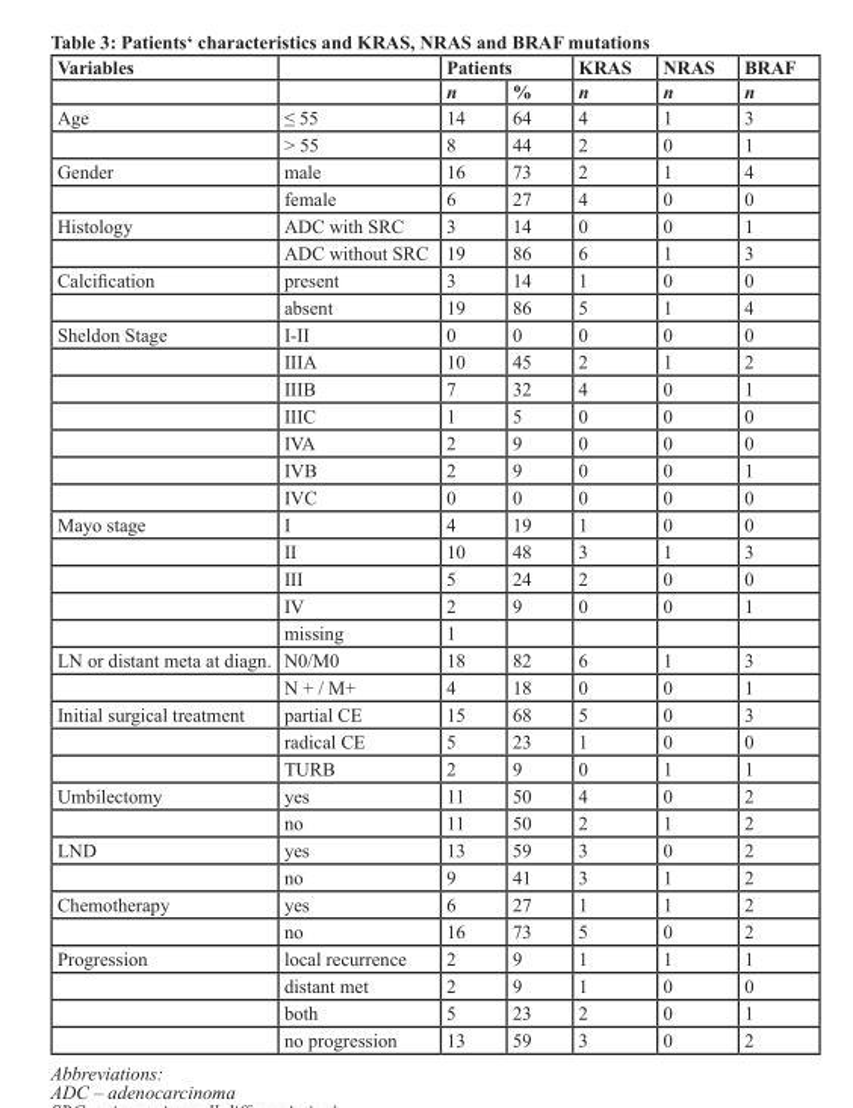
<table><thead><tr><td rowspan="2">Variables</td><td rowspan="2"></td><td colspan="2">Patients</td><td rowspan="2">KRAS n</td><td rowspan="2">NRAS n</td><td rowspan="2">BRAF n</td></tr><tr><td>n</td><td>%</td></tr></thead><tbody><tr><td rowspan="2">Age</td><td>≤ 55</td><td>14</td><td>64</td><td>4</td><td>1</td><td>3</td></tr><tr><td>&gt; 55</td><td>8</td><td>44</td><td>2</td><td>0</td><td>1</td></tr><tr><td rowspan="2">Gender</td><td>male</td><td>16</td><td>73</td><td>2</td><td>1</td><td>4</td></tr><tr><td>female</td><td>6</td><td>27</td><td>4</td><td>0</td><td>0</td></tr><tr><td rowspan="2">Histology</td><td>ADC with SRC</td><td>3</td><td>14</td><td>0</td><td>0</td><td>1</td></tr><tr><td>ADC without SRC</td><td>19</td><td>86</td><td>6</td><td>1</td><td>3</td></tr><tr><td rowspan="2">Calcification</td><td>present</td><td>3</td><td>14</td><td>1</td><td>0</td><td>0</td></tr><tr><td>absent</td><td>19</td><td>86</td><td>5</td><td>1</td><td>4</td></tr><tr><td rowspan="7">Sheldon Stage</td><td>I-II</td><td>0</td><td>0</td><td>0</td><td>0</td><td>0</td></tr><tr><td>IIIA</td><td>10</td><td>45</td><td>2</td><td>1</td><td>2</td></tr><tr><td>IIIB</td><td>7</td><td>32</td><td>4</td><td>0</td><td>1</td></tr><tr><td>IIIC</td><td>1</td><td>5</td><td>0</td><td>0</td><td>0</td></tr><tr><td>IVA</td><td>2</td><td>9</td><td>0</td><td>0</td><td>0</td></tr><tr><td>IVB</td><td>2</td><td>9</td><td>0</td><td>0</td><td>1</td></tr><tr><td>IVC</td><td>0</td><td>0</td><td>0</td><td>0</td><td>0</td></tr><tr><td rowspan="5">Mayo stage</td><td>I</td><td>4</td><td>19</td><td>1</td><td>0</td><td>0</td></tr><tr><td>II</td><td>10</td><td>48</td><td>3</td><td>1</td><td>3</td></tr><tr><td>III</td><td>5</td><td>24</td><td>2</td><td>0</td><td>0</td></tr><tr><td>IV</td><td>2</td><td>9</td><td>0</td><td>0</td><td>1</td></tr><tr><td>missing</td><td>1</td><td></td><td></td><td></td><td></td></tr><tr><td rowspan="2">LN or distant meta at diagn.</td><td>N0/M0</td><td>18</td><td>82</td><td>6</td><td>1</td><td>3</td></tr><tr><td>N + / M+</td><td>4</td><td>18</td><td>0</td><td>0</td><td>1</td></tr><tr><td rowspan="3">Initial surgical treatment</td><td>partial CE</td><td>15</td><td>68</td><td>5</td><td>0</td><td>3</td></tr><tr><td>radical CE</td><td>5</td><td>23</td><td>1</td><td>0</td><td>0</td></tr><tr><td>TURB</td><td>2</td><td>9</td><td>0</td><td>1</td><td>1</td></tr><tr><td rowspan="2">Umbilectomy</td><td>yes</td><td>11</td><td>50</td><td>4</td><td>0</td><td>2</td></tr><tr><td>no</td><td>11</td><td>50</td><td>2</td><td>1</td><td>2</td></tr><tr><td rowspan="2">LND</td><td>yes</td><td>13</td><td>59</td><td>3</td><td>0</td><td>2</td></tr><tr><td>no</td><td>9</td><td>41</td><td>3</td><td>1</td><td>2</td></tr><tr><td rowspan="2">Chemotherapy</td><td>yes</td><td>6</td><td>27</td><td>1</td><td>1</td><td>2</td></tr><tr><td>no</td><td>16</td><td>73</td><td>5</td><td>0</td><td>2</td></tr><tr><td rowspan="4">Progression</td><td>local recurrence</td><td>2</td><td>9</td><td>1</td><td>1</td><td>1</td></tr><tr><td>distant met</td><td>2</td><td>9</td><td>1</td><td>0</td><td>0</td></tr><tr><td>both</td><td>5</td><td>23</td><td>2</td><td>0</td><td>1</td></tr><tr><td>no progression</td><td>13</td><td>59</td><td>3</td><td>0</td><td>2</td></tr></tbody></table>